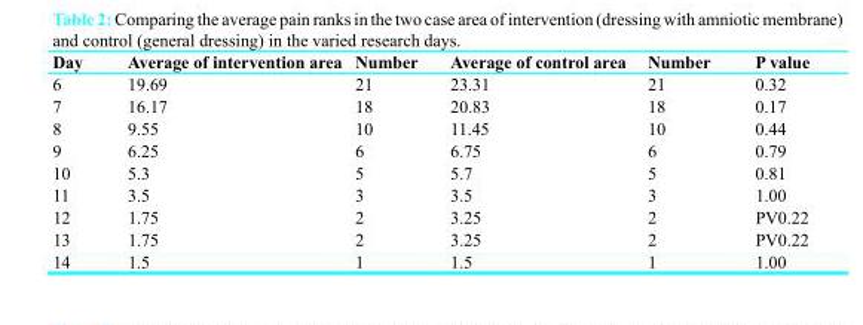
<table><thead><tr><td>Day</td><td>Average of intervention area</td><td>Number</td><td>Average of control area</td><td>Number</td><td>P value</td></tr></thead><tbody><tr><td>6</td><td>19.69</td><td>21</td><td>23.31</td><td>21</td><td>0.32</td></tr><tr><td>7</td><td>16.17</td><td>18</td><td>20.83</td><td>18</td><td>0.17</td></tr><tr><td>8</td><td>9.55</td><td>10</td><td>11.45</td><td>10</td><td>0.44</td></tr><tr><td>9</td><td>6.25</td><td>6</td><td>6.75</td><td>6</td><td>0.79</td></tr><tr><td>10</td><td>5.3</td><td>5</td><td>5.7</td><td>5</td><td>0.81</td></tr><tr><td>11</td><td>3.5</td><td>3</td><td>3.5</td><td>3</td><td>1.00</td></tr><tr><td>12</td><td>1.75</td><td>2</td><td>3.25</td><td>2</td><td>PV0.22</td></tr><tr><td>13</td><td>1.75</td><td>2</td><td>3.25</td><td>2</td><td>PV0.22</td></tr><tr><td>14</td><td>1.5</td><td>1</td><td>1.5</td><td>1</td><td>1.00</td></tr></tbody></table>